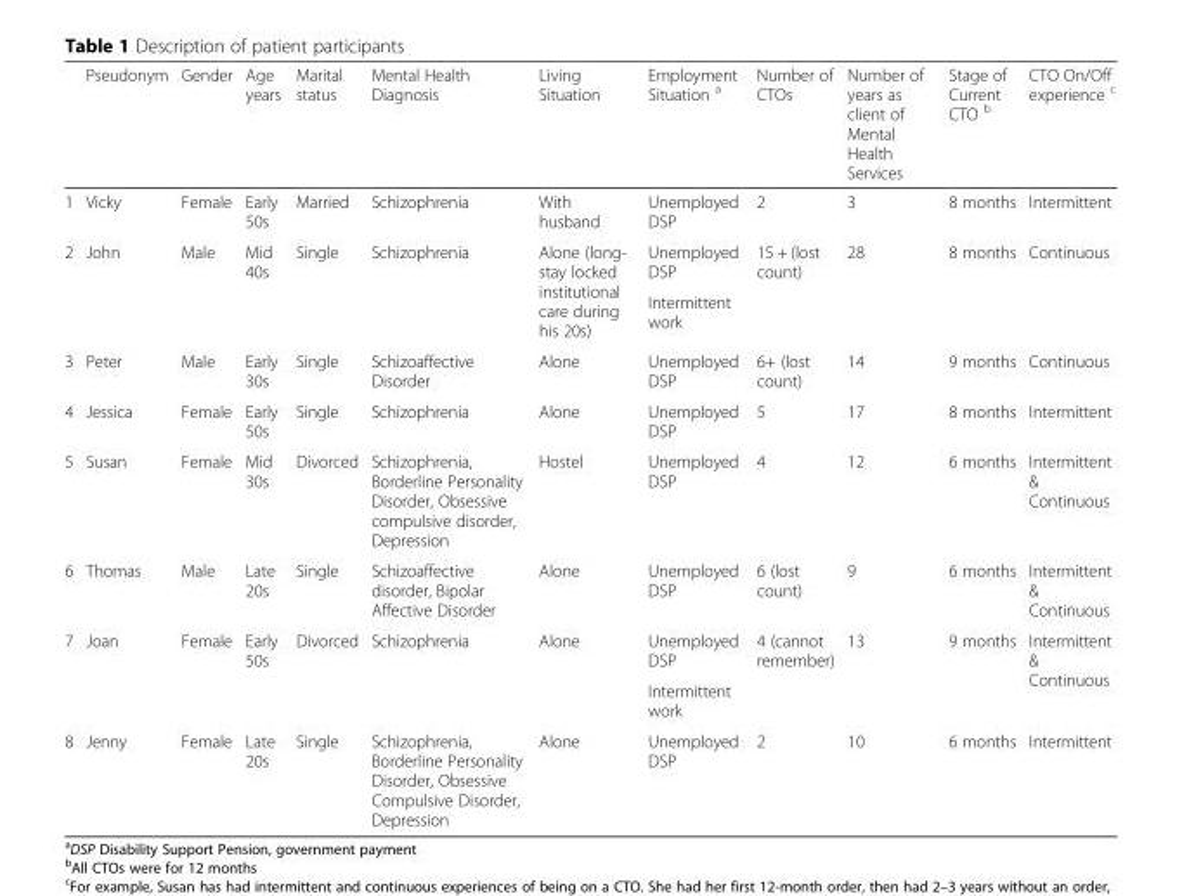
<table><thead><tr><td></td><td>Pseudonym</td><td>Gender</td><td>Age years</td><td>Marital status</td><td>Mental Health Diagnosis</td><td>Living Situation</td><td>Employment Situation <sup>a</sup></td><td>Number of CTOs</td><td>Number of years as client of Mental Health Services</td><td>Stage of Current CTO <sup>b</sup></td><td>CTO On/Off experience <sup>c</sup></td></tr></thead><tbody><tr><td>1</td><td>Vicky</td><td>Female</td><td>Early 50s</td><td>Married</td><td>Schizophrenia</td><td>With husband</td><td>Unemployed DSP</td><td>2</td><td>3</td><td>8 months</td><td>Intermittent</td></tr><tr><td rowspan="2">2</td><td rowspan="2">John</td><td rowspan="2">Male</td><td rowspan="2">Mid 40s</td><td rowspan="2">Single</td><td rowspan="2">Schizophrenia</td><td rowspan="2">Alone (long- stay locked institutional care during his 20s)</td><td>Unemployed DSP</td><td rowspan="2">15 + (lost count)</td><td rowspan="2">28</td><td rowspan="2">8 months</td><td rowspan="2">Continuous</td></tr><tr><td>Intermittent work</td></tr><tr><td>3</td><td>Peter</td><td>Male</td><td>Early 30s</td><td>Single</td><td>Schizoaffective Disorder</td><td>Alone</td><td>Unemployed DSP</td><td>6+ (lost count)</td><td>14</td><td>9 months</td><td>Continuous</td></tr><tr><td>4</td><td>Jessica</td><td>Female</td><td>Early 50s</td><td>Single</td><td>Schizophrenia</td><td>Alone</td><td>Unemployed DSP</td><td>5</td><td>17</td><td>8 months</td><td>Intermittent</td></tr><tr><td>5</td><td>Susan</td><td>Female</td><td>Mid 30s</td><td>Divorced</td><td>Schizophrenia, Borderline Personality Disorder, Obsessive compulsive disorder, Depression</td><td>Hostel</td><td>Unemployed DSP</td><td>4</td><td>12</td><td>6 months</td><td>Intermittent &amp; Continuous</td></tr><tr><td>6</td><td>Thomas</td><td>Male</td><td>Late 20s</td><td>Single</td><td>Schizoaffective disorder, Bipolar Affective Disorder</td><td>Alone</td><td>Unemployed DSP</td><td>6 (lost count)</td><td>9</td><td>6 months</td><td>Intermittent &amp; Continuous</td></tr><tr><td rowspan="2">7</td><td rowspan="2">Joan</td><td rowspan="2">Female</td><td rowspan="2">Early 50s</td><td rowspan="2">Divorced</td><td rowspan="2">Schizophrenia</td><td rowspan="2">Alone</td><td>Unemployed DSP</td><td rowspan="2">4 (cannot remember)</td><td rowspan="2">13</td><td rowspan="2">9 months</td><td rowspan="2">Intermittent &amp; Continuous</td></tr><tr><td>Intermittent work</td></tr><tr><td>8</td><td>Jenny</td><td>Female</td><td>Late 20s</td><td>Single</td><td>Schizophrenia, Borderline Personality Disorder, Obsessive Compulsive Disorder, Depression</td><td>Alone</td><td>Unemployed DSP</td><td>2</td><td>10</td><td>6 months</td><td>Intermittent</td></tr></tbody></table>